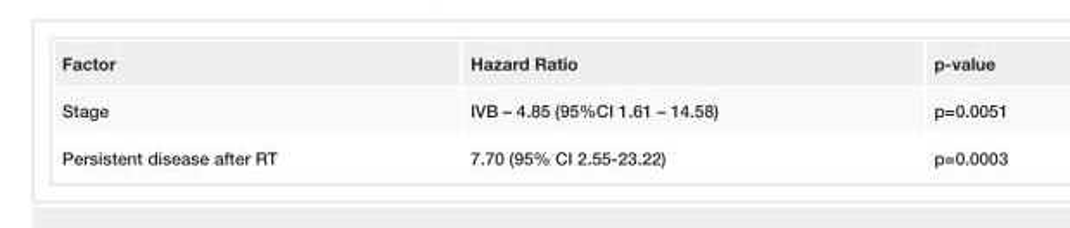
<table><tbody><tr><td>Factor</td><td>Hazard Ratio</td><td>p-value</td></tr><tr><td>Stage</td><td>IVB – 4.85 (95%CI 1.61 – 14.58)</td><td>p=0.0051</td></tr><tr><td>Persistent disease after RT</td><td>7.70 (95% CI 2.55-23.22)</td><td>p=0.0003</td></tr></tbody></table>